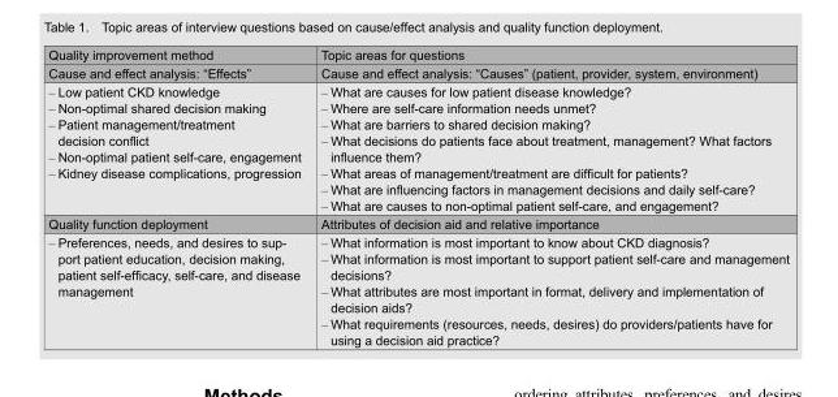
<table><thead><tr><td>Quality improvement method</td><td>Topic areas for questions</td></tr></thead><tbody><tr><td>Cause and effect analysis: “Effects”</td><td>Cause and effect analysis: “Causes” (patient, provider, system, environment)</td></tr><tr><td>– Low patient CKD knowledge – Non-optimal shared decision making – Patient management/treatment decision conflict – Non-optimal patient self-care, engagement – Kidney disease complications, progression</td><td>– What are causes for low patient disease knowledge? – Where are self-care information needs unmet? – What are barriers to shared decision making? – What decisions do patients face about treatment, management? What factors influence them? – What areas of management/treatment are difficult for patients? – What are influencing factors in management decisions and daily self-care? – What are causes to non-optimal patient self-care, and engagement?</td></tr><tr><td>Quality function deployment</td><td>Attributes of decision aid and relative importance</td></tr><tr><td>– Preferences, needs, and desires to sup- port patient education, decision making, patient self-efficacy, self-care, and disease management</td><td>– What information is most important to know about CKD diagnosis? – What information is most important to support patient self-care and management decisions? – What attributes are most important in format, delivery and implementation of decision aids? – What requirements (resources, needs, desires) do providers/patients have for using a decision aid practice?</td></tr></tbody></table>